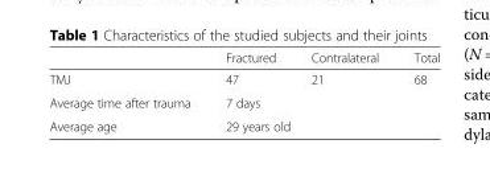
<table><thead><tr><td></td><td>Fractured</td><td>Contralateral</td><td>Total</td></tr></thead><tbody><tr><td>TMJ</td><td>47</td><td>21</td><td>68</td></tr><tr><td>Average time after trauma</td><td colspan="3">7 days</td></tr><tr><td>Average age</td><td colspan="3">29 years old</td></tr></tbody></table>